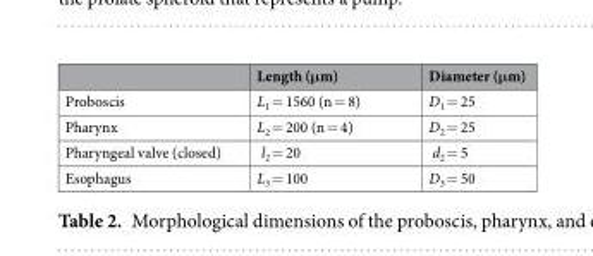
<table><thead><tr><td></td><td>Length (μm)</td><td>Diameter (μm)</td></tr></thead><tbody><tr><td>Proboscis</td><td>L<sub>1</sub> = 1560 (n = 8)</td><td>D<sub>1</sub> = 25</td></tr><tr><td>Pharynx</td><td>L<sub>2</sub> = 200 (n = 4)</td><td>D<sub>2</sub> = 25</td></tr><tr><td>Pharyngeal valve (closed)</td><td>l<sub>2</sub> = 20</td><td>d<sub>2</sub> = 5</td></tr><tr><td>Esophagus</td><td>L<sub>3</sub> = 100</td><td>D<sub>3</sub> = 50</td></tr></tbody></table>